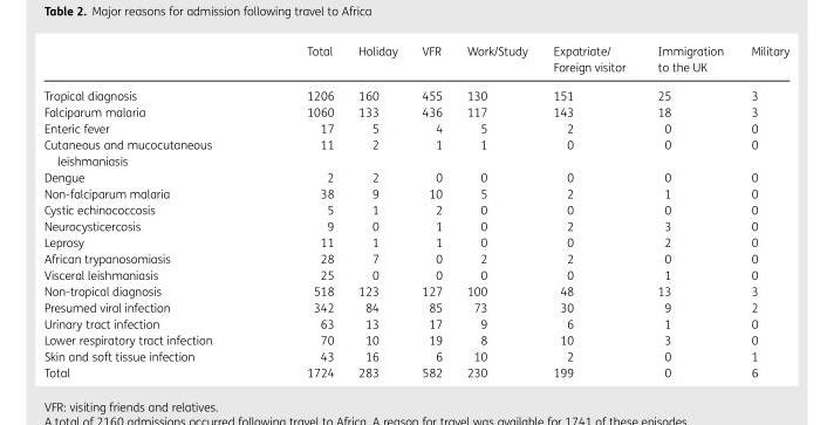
<table><thead><tr><td></td><td>Total</td><td>Holiday</td><td>VFR</td><td>Work/Study</td><td>Expatriate/ Foreign visitor</td><td>Immigration to the UK</td><td>Military</td></tr></thead><tbody><tr><td>Tropical diagnosis</td><td>1206</td><td>160</td><td>455</td><td>130</td><td>151</td><td>25</td><td>3</td></tr><tr><td>Falciparum malaria</td><td>1060</td><td>133</td><td>436</td><td>117</td><td>143</td><td>18</td><td>3</td></tr><tr><td>Enteric fever</td><td>17</td><td>5</td><td>4</td><td>5</td><td>2</td><td>0</td><td>0</td></tr><tr><td>Cutaneous and mucocutaneous leishmaniasis</td><td>11</td><td>2</td><td>1</td><td>1</td><td>0</td><td>0</td><td>0</td></tr><tr><td>Dengue</td><td>2</td><td>2</td><td>0</td><td>0</td><td>0</td><td>0</td><td>0</td></tr><tr><td>Non-falciparum malaria</td><td>38</td><td>9</td><td>10</td><td>5</td><td>2</td><td>1</td><td>0</td></tr><tr><td>Cystic echinococcosis</td><td>5</td><td>1</td><td>2</td><td>0</td><td>0</td><td>0</td><td>0</td></tr><tr><td>Neurocysticercosis</td><td>9</td><td>0</td><td>1</td><td>0</td><td>2</td><td>3</td><td>0</td></tr><tr><td>Leprosy</td><td>11</td><td>1</td><td>1</td><td>0</td><td>0</td><td>2</td><td>0</td></tr><tr><td>African trypanosomiasis</td><td>28</td><td>7</td><td>0</td><td>2</td><td>2</td><td>0</td><td>0</td></tr><tr><td>Visceral leishmaniasis</td><td>25</td><td>0</td><td>0</td><td>0</td><td>0</td><td>1</td><td>0</td></tr><tr><td>Non-tropical diagnosis</td><td>518</td><td>123</td><td>127</td><td>100</td><td>48</td><td>13</td><td>3</td></tr><tr><td>Presumed viral infection</td><td>342</td><td>84</td><td>85</td><td>73</td><td>30</td><td>9</td><td>2</td></tr><tr><td>Urinary tract infection</td><td>63</td><td>13</td><td>17</td><td>9</td><td>6</td><td>1</td><td>0</td></tr><tr><td>Lower respiratory tract infection</td><td>70</td><td>10</td><td>19</td><td>8</td><td>10</td><td>3</td><td>0</td></tr><tr><td>Skin and soft tissue infection</td><td>43</td><td>16</td><td>6</td><td>10</td><td>2</td><td>0</td><td>1</td></tr><tr><td>Total</td><td>1724</td><td>283</td><td>582</td><td>230</td><td>199</td><td>0</td><td>6</td></tr></tbody></table>